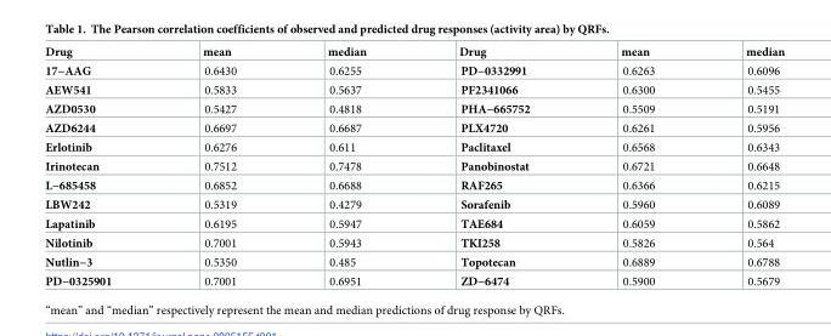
<table><thead><tr><td>Drug</td><td>mean</td><td>median</td><td>Drug</td><td>mean</td><td>median</td></tr></thead><tbody><tr><td>17−AAG</td><td>0.6430</td><td>0.6255</td><td>PD−0332991</td><td>0.6263</td><td>0.6096</td></tr><tr><td>AEW541</td><td>0.5833</td><td>0.5637</td><td>PF2341066</td><td>0.6300</td><td>0.5455</td></tr><tr><td>AZD0530</td><td>0.5427</td><td>0.4818</td><td>PHA−665752</td><td>0.5509</td><td>0.5191</td></tr><tr><td>AZD6244</td><td>0.6697</td><td>0.6687</td><td>PLX4720</td><td>0.6261</td><td>0.5956</td></tr><tr><td>Erlotinib</td><td>0.6276</td><td>0.611</td><td>Paclitaxel</td><td>0.6568</td><td>0.6343</td></tr><tr><td>Irinotecan</td><td>0.7512</td><td>0.7478</td><td>Panobinostat</td><td>0.6721</td><td>0.6648</td></tr><tr><td>L−685458</td><td>0.6852</td><td>0.6688</td><td>RAF265</td><td>0.6366</td><td>0.6215</td></tr><tr><td>LBW242</td><td>0.5319</td><td>0.4279</td><td>Sorafenib</td><td>0.5960</td><td>0.6089</td></tr><tr><td>Lapatinib</td><td>0.6195</td><td>0.5947</td><td>TAE684</td><td>0.6059</td><td>0.5862</td></tr><tr><td>Nilotinib</td><td>0.7001</td><td>0.5943</td><td>TKI258</td><td>0.5826</td><td>0.564</td></tr><tr><td>Nutlin−3</td><td>0.5350</td><td>0.485</td><td>Topotecan</td><td>0.6889</td><td>0.6788</td></tr><tr><td>PD−0325901</td><td>0.7001</td><td>0.6951</td><td>ZD−6474</td><td>0.5900</td><td>0.5679</td></tr></tbody></table>